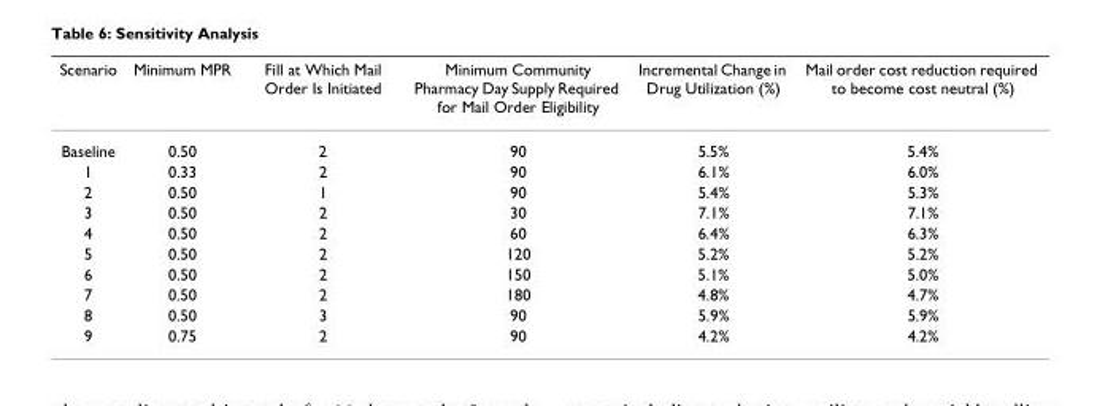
<table><thead><tr><td>Scenario</td><td>Minimum MPR</td><td>Fill at Which Mail Order Is Initiated</td><td>Minimum Community Pharmacy Day Supply Required for Mail Order Eligibility</td><td>Incremental Change in Drug Utilization (%)</td><td>Mail order cost reduction required to become cost neutral (%)</td></tr></thead><tbody><tr><td>Baseline</td><td>0.50</td><td>2</td><td>90</td><td>5.5%</td><td>5.4%</td></tr><tr><td>1</td><td>0.33</td><td>2</td><td>90</td><td>6.1%</td><td>6.0%</td></tr><tr><td>2</td><td>0.50</td><td>1</td><td>90</td><td>5.4%</td><td>5.3%</td></tr><tr><td>3</td><td>0.50</td><td>2</td><td>30</td><td>7.1%</td><td>7.1%</td></tr><tr><td>4</td><td>0.50</td><td>2</td><td>60</td><td>6.4%</td><td>6.3%</td></tr><tr><td>5</td><td>0.50</td><td>2</td><td>120</td><td>5.2%</td><td>5.2%</td></tr><tr><td>6</td><td>0.50</td><td>2</td><td>150</td><td>5.1%</td><td>5.0%</td></tr><tr><td>7</td><td>0.50</td><td>2</td><td>180</td><td>4.8%</td><td>4.7%</td></tr><tr><td>8</td><td>0.50</td><td>3</td><td>90</td><td>5.9%</td><td>5.9%</td></tr><tr><td>9</td><td>0.75</td><td>2</td><td>90</td><td>4.2%</td><td>4.2%</td></tr></tbody></table>